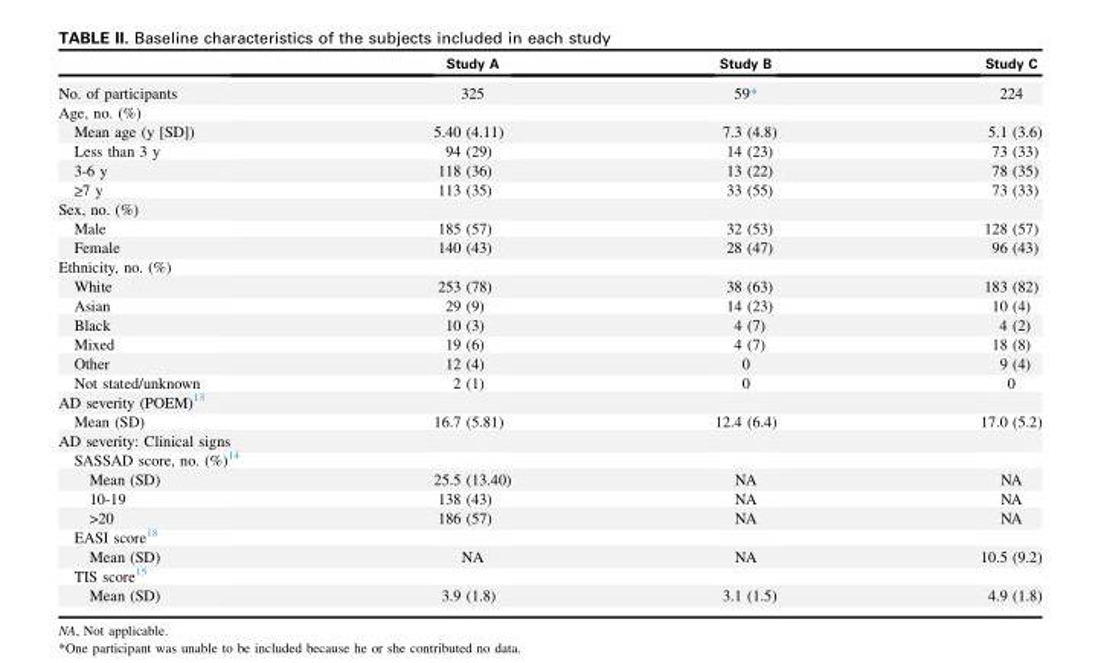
<table><thead><tr><td></td><td>Study A</td><td>Study B</td><td>Study C</td></tr></thead><tbody><tr><td>No. of participants</td><td>325</td><td>59*</td><td>224</td></tr><tr><td colspan="4">Age, no. (%)</td></tr><tr><td>Mean age (y [SD])</td><td>5.40 (4.11)</td><td>7.3 (4.8)</td><td>5.1 (3.6)</td></tr><tr><td>Less than 3 y</td><td>94 (29)</td><td>14 (23)</td><td>73 (33)</td></tr><tr><td>3-6 y</td><td>118 (36)</td><td>13 (22)</td><td>78 (35)</td></tr><tr><td>&gt;_7 y</td><td>113 (35)</td><td>33 (55)</td><td>73 (33)</td></tr><tr><td colspan="4">Sex, no. (%)</td></tr><tr><td>Male</td><td>185 (57)</td><td>32 (53)</td><td>128 (57)</td></tr><tr><td>Female</td><td>140 (43)</td><td>28 (47)</td><td>96 (43)</td></tr><tr><td colspan="4">Ethnicity, no. (%)</td></tr><tr><td>White</td><td>253 (78)</td><td>38 (63)</td><td>183 (82)</td></tr><tr><td>Asian</td><td>29 (9)</td><td>14 (23)</td><td>10 (4)</td></tr><tr><td>Black</td><td>10 (3)</td><td>4 (7)</td><td>4 (2)</td></tr><tr><td>Mixed</td><td>19 (6)</td><td>4 (7)</td><td>18 (8)</td></tr><tr><td>Other</td><td>12 (4)</td><td>0</td><td>9 (4)</td></tr><tr><td>Not stated/unknown</td><td>2 (1)</td><td>0</td><td>0</td></tr><tr><td colspan="4">AD severity (POEM)<sup>13</sup></td></tr><tr><td>Mean (SD)</td><td>16.7 (5.81)</td><td>12.4 (6.4)</td><td>17.0 (5.2)</td></tr><tr><td colspan="4">AD severity: Clinical signs</td></tr><tr><td colspan="4">SASSAD score, no. (%)<sup>14</sup></td></tr><tr><td>Mean (SD)</td><td>25.5 (13.40)</td><td>NA</td><td>NA</td></tr><tr><td>10-19</td><td>138 (43)</td><td>NA</td><td>NA</td></tr><tr><td>&gt;20</td><td>186 (57)</td><td>NA</td><td>NA</td></tr><tr><td colspan="4">EASI score<sup>18</sup></td></tr><tr><td>Mean (SD)</td><td>NA</td><td>NA</td><td>10.5 (9.2)</td></tr><tr><td colspan="4">TIS score<sup>15</sup></td></tr><tr><td>Mean (SD)</td><td>3.9 (1.8)</td><td>3.1 (1.5)</td><td>4.9 (1.8)</td></tr></tbody></table>